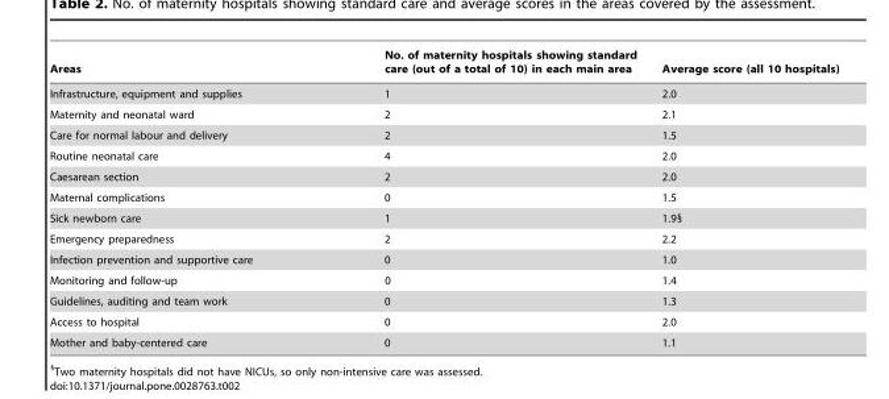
<table><thead><tr><td>Areas</td><td>No. of maternity hospitals showing standard care (out of a total of 10) in each main area</td><td>Average score (all 10 hospitals)</td></tr></thead><tbody><tr><td>Infrastructure, equipment and supplies</td><td>1</td><td>2.0</td></tr><tr><td>Maternity and neonatal ward</td><td>2</td><td>2.1</td></tr><tr><td>Care for normal labour and delivery</td><td>2</td><td>1.5</td></tr><tr><td>Routine neonatal care</td><td>4</td><td>2.0</td></tr><tr><td>Caesarean section</td><td>2</td><td>2.0</td></tr><tr><td>Maternal complications</td><td>0</td><td>1.5</td></tr><tr><td>Sick newborn care</td><td>1</td><td>1.9§</td></tr><tr><td>Emergency preparedness</td><td>2</td><td>2.2</td></tr><tr><td>Infection prevention and supportive care</td><td>0</td><td>1.0</td></tr><tr><td>Monitoring and follow-up</td><td>0</td><td>1.4</td></tr><tr><td>Guidelines, auditing and team work</td><td>0</td><td>1.3</td></tr><tr><td>Access to hospital</td><td>0</td><td>2.0</td></tr><tr><td>Mother and baby-centered care</td><td>0</td><td>1.1</td></tr></tbody></table>